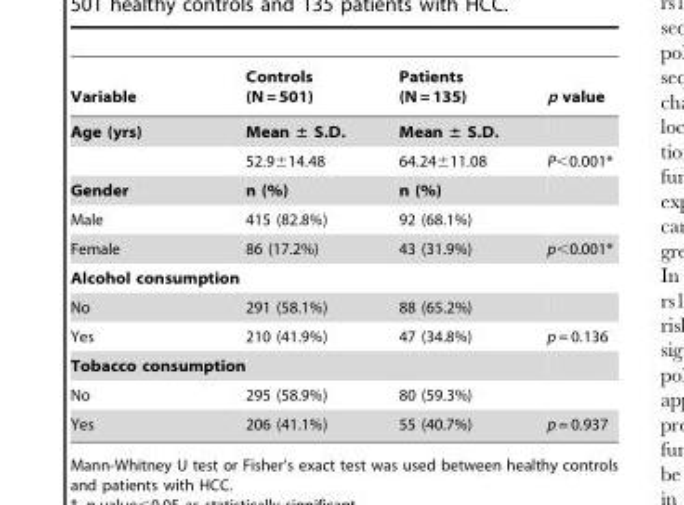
<table><thead><tr><td>Variable</td><td>Controls (N = 501)</td><td>Patients (N = 135)</td><td>p value</td></tr></thead><tbody><tr><td rowspan="2">Age (yrs)</td><td>Mean ± S.D.</td><td>Mean ± S.D.</td><td></td></tr><tr><td>52.9±14.48</td><td>64.24±11.08</td><td>P&lt;0.001*</td></tr><tr><td>Gender</td><td>n (%)</td><td>n (%)</td><td></td></tr><tr><td>Male</td><td>415 (82.8%)</td><td>92 (68.1%)</td><td></td></tr><tr><td>Female</td><td>86 (17.2%)</td><td>43 (31.9%)</td><td>p&lt;0.001*</td></tr><tr><td colspan="4">Alcohol consumption</td></tr><tr><td>No</td><td>291 (58.1%)</td><td>88 (65.2%)</td><td></td></tr><tr><td>Yes</td><td>210 (41.9%)</td><td>47 (34.8%)</td><td>p = 0.136</td></tr><tr><td colspan="4">Tobacco consumption</td></tr><tr><td>No</td><td>295 (58.9%)</td><td>80 (59.3%)</td><td></td></tr><tr><td>Yes</td><td>206 (41.1%)</td><td>55 (40.7%)</td><td>p = 0.937</td></tr></tbody></table>